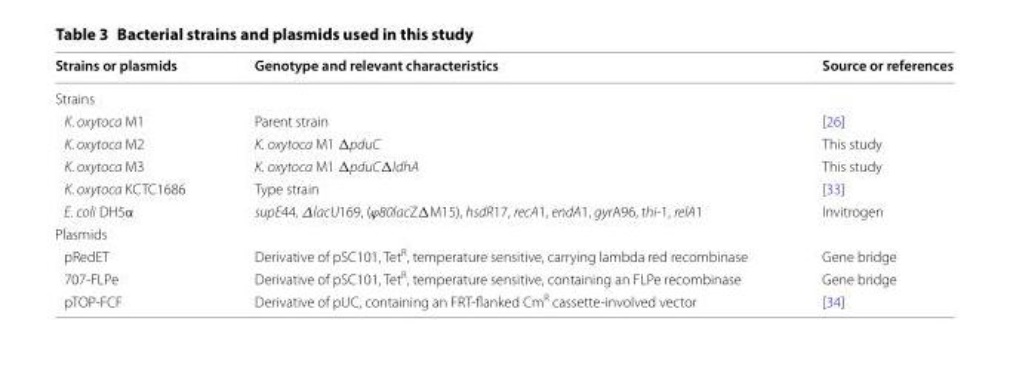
<table><thead><tr><td>Strains or plasmids</td><td>Genotype and relevant characteristics</td><td>Source or references</td></tr></thead><tbody><tr><td colspan="3">Strains</td></tr><tr><td>K. oxytoca M1</td><td>Parent strain</td><td>[26]</td></tr><tr><td>K. oxytoca M2</td><td>K. oxytoca M1 ΔpduC</td><td>This study</td></tr><tr><td>K. oxytoca M3</td><td>K. oxytoca M1 ΔpduCΔldhA</td><td>This study</td></tr><tr><td>K. oxytoca KCTC1686</td><td>Type strain</td><td>[33]</td></tr><tr><td>E. coli DH5α</td><td>supE44, ΔlacU169, (ϕ80lacZΔM15), hsdR17, recA1, endA1, gyrA96, thi-1, relA1</td><td>Invitrogen</td></tr><tr><td colspan="3">Plasmids</td></tr><tr><td>pRedET</td><td>Derivative of pSC101, Tet<sup>R</sup>, temperature sensitive, carrying lambda red recombinase</td><td>Gene bridge</td></tr><tr><td>707-FLPe</td><td>Derivative of pSC101, Tet<sup>R</sup>, temperature sensitive, containing an FLPe recombinase</td><td>Gene bridge</td></tr><tr><td>pTOP-FCF</td><td>Derivative of pUC, containing an FRT-flanked Cm<sup>R</sup> cassette-involved vector</td><td>[34]</td></tr></tbody></table>